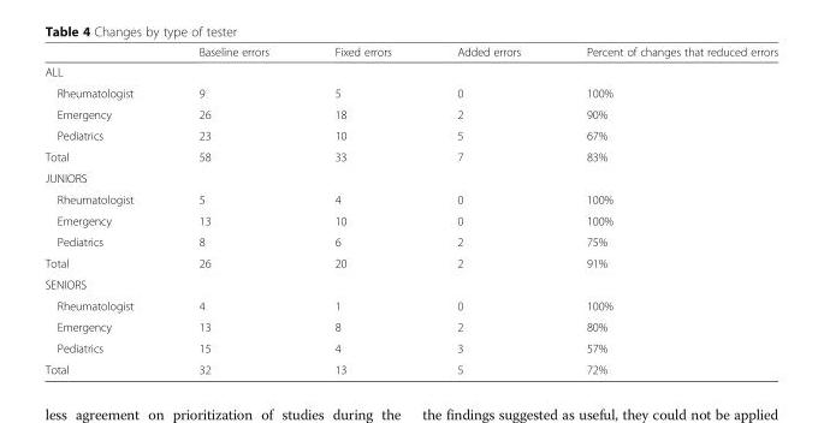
<table><thead><tr><td></td><td>Baseline errors</td><td>Fixed errors</td><td>Added errors</td><td>Percent of changes that reduced errors</td></tr></thead><tbody><tr><td colspan="5">ALL</td></tr><tr><td>Rheumatologist</td><td>9</td><td>5</td><td>0</td><td>100%</td></tr><tr><td>Emergency</td><td>26</td><td>18</td><td>2</td><td>90%</td></tr><tr><td>Pediatrics</td><td>23</td><td>10</td><td>5</td><td>67%</td></tr><tr><td>Total</td><td>58</td><td>33</td><td>7</td><td>83%</td></tr><tr><td colspan="5">JUNIORS</td></tr><tr><td>Rheumatologist</td><td>5</td><td>4</td><td>0</td><td>100%</td></tr><tr><td>Emergency</td><td>13</td><td>10</td><td>0</td><td>100%</td></tr><tr><td>Pediatrics</td><td>8</td><td>6</td><td>2</td><td>75%</td></tr><tr><td>Total</td><td>26</td><td>20</td><td>2</td><td>91%</td></tr><tr><td colspan="5">SENIORS</td></tr><tr><td>Rheumatologist</td><td>4</td><td>1</td><td>0</td><td>100%</td></tr><tr><td>Emergency</td><td>13</td><td>8</td><td>2</td><td>80%</td></tr><tr><td>Pediatrics</td><td>15</td><td>4</td><td>3</td><td>57%</td></tr><tr><td>Total</td><td>32</td><td>13</td><td>5</td><td>72%</td></tr></tbody></table>